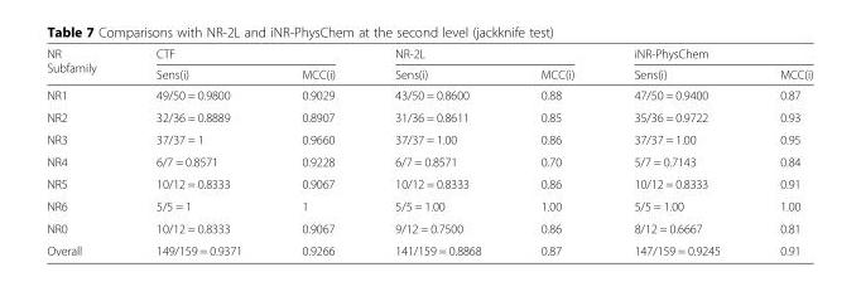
<table><thead><tr><td rowspan="2">NR Subfamily</td><td colspan="2">CTF</td><td colspan="2">NR-2L</td><td colspan="2">iNR-PhysChem</td></tr><tr><td>Sens(i)</td><td>MCC(i)</td><td>Sens(i)</td><td>MCC(i)</td><td>Sens(i)</td><td>MCC(i)</td></tr></thead><tbody><tr><td>NR1</td><td>49/50 = 0.9800</td><td>0.9029</td><td>43/50 = 0.8600</td><td>0.88</td><td>47/50 = 0.9400</td><td>0.87</td></tr><tr><td>NR2</td><td>32/36 = 0.8889</td><td>0.8907</td><td>31/36 = 0.8611</td><td>0.85</td><td>35/36 = 0.9722</td><td>0.93</td></tr><tr><td>NR3</td><td>37/37 = 1</td><td>0.9660</td><td>37/37 = 1.00</td><td>0.86</td><td>37/37 = 1.00</td><td>0.95</td></tr><tr><td>NR4</td><td>6/7 = 0.8571</td><td>0.9228</td><td>6/7 = 0.8571</td><td>0.70</td><td>5/7 = 0.7143</td><td>0.84</td></tr><tr><td>NR5</td><td>10/12 = 0.8333</td><td>0.9067</td><td>10/12 = 0.8333</td><td>0.86</td><td>10/12 = 0.8333</td><td>0.91</td></tr><tr><td>NR6</td><td>5/5 = 1</td><td>1</td><td>5/5 = 1.00</td><td>1.00</td><td>5/5 = 1.00</td><td>1.00</td></tr><tr><td>NR0</td><td>10/12 = 0.8333</td><td>0.9067</td><td>9/12 = 0.7500</td><td>0.86</td><td>8/12 = 0.6667</td><td>0.81</td></tr><tr><td>Overall</td><td>149/159 = 0.9371</td><td>0.9266</td><td>141/159 = 0.8868</td><td>0.87</td><td>147/159 = 0.9245</td><td>0.91</td></tr></tbody></table>